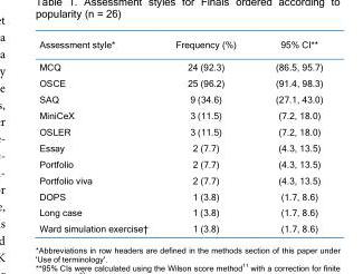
<table><thead><tr><td>Assessment style*</td><td>Frequency (%)</td><td>95% CI**</td></tr></thead><tbody><tr><td>MCQ</td><td>24 (92.3)</td><td>(86.5, 95.7)</td></tr><tr><td>OSCE</td><td>25 (96.2)</td><td>(91.4, 98.3)</td></tr><tr><td>SAQ</td><td>9 (34.6)</td><td>(27.1, 43.0)</td></tr><tr><td>MiniCeX</td><td>3 (11.5)</td><td>(7.2, 18.0)</td></tr><tr><td>OSLER</td><td>3 (11.5)</td><td>(7.2, 18.0)</td></tr><tr><td>Essay</td><td>2 (7.7)</td><td>(4.3, 13.5)</td></tr><tr><td>Portfolio</td><td>2 (7.7)</td><td>(4.3, 13.5)</td></tr><tr><td>Portfolio viva</td><td>2 (7.7)</td><td>(4.3, 13.5)</td></tr><tr><td>DOPS</td><td>1 (3.8)</td><td>(1.7, 8.6)</td></tr><tr><td>Long case</td><td>1 (3.8)</td><td>(1.7, 8.6)</td></tr><tr><td>Ward simulation exercise†</td><td>1 (3.8)</td><td>(1.7, 8.6)</td></tr></tbody></table>